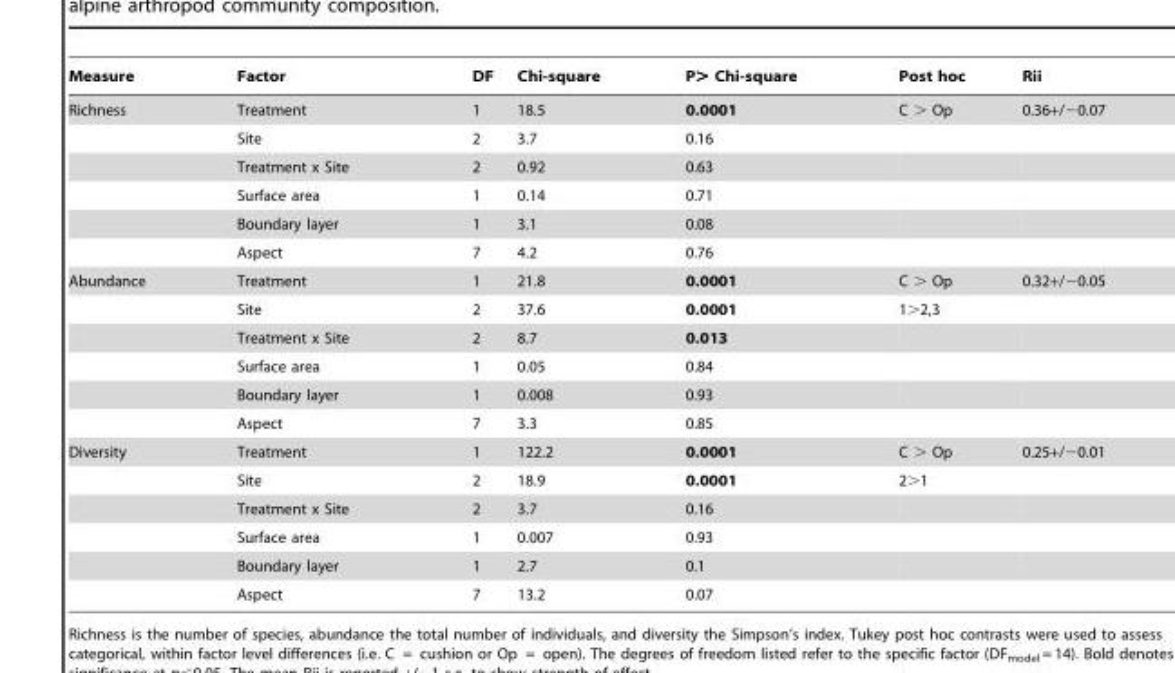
<table><thead><tr><td>Measure</td><td>Factor</td><td>DF</td><td>Chi-square</td><td>P&gt; Chi-square</td><td>Post hoc</td><td>Rii</td></tr></thead><tbody><tr><td rowspan="6">Richness</td><td>Treatment</td><td>1</td><td>18.5</td><td>0.0001</td><td>C &gt; Op</td><td>0.36+/−0.07</td></tr><tr><td>Site</td><td>2</td><td>3.7</td><td>0.16</td><td></td><td></td></tr><tr><td>Treatment x Site</td><td>2</td><td>0.92</td><td>0.63</td><td></td><td></td></tr><tr><td>Surface area</td><td>1</td><td>0.14</td><td>0.71</td><td></td><td></td></tr><tr><td>Boundary layer</td><td>1</td><td>3.1</td><td>0.08</td><td></td><td></td></tr><tr><td>Aspect</td><td>7</td><td>4.2</td><td>0.76</td><td></td><td></td></tr><tr><td rowspan="6">Abundance</td><td>Treatment</td><td>1</td><td>21.8</td><td>0.0001</td><td>C &gt; Op</td><td>0.32+/−0.05</td></tr><tr><td>Site</td><td>2</td><td>37.6</td><td>0.0001</td><td>1&gt;2,3</td><td></td></tr><tr><td>Treatment x Site</td><td>2</td><td>8.7</td><td>0.013</td><td></td><td></td></tr><tr><td>Surface area</td><td>1</td><td>0.05</td><td>0.84</td><td></td><td></td></tr><tr><td>Boundary layer</td><td>1</td><td>0.008</td><td>0.93</td><td></td><td></td></tr><tr><td>Aspect</td><td>7</td><td>3.3</td><td>0.85</td><td></td><td></td></tr><tr><td rowspan="6">Diversity</td><td>Treatment</td><td>1</td><td>122.2</td><td>0.0001</td><td>C &gt; Op</td><td>0.25+/−0.01</td></tr><tr><td>Site</td><td>2</td><td>18.9</td><td>0.0001</td><td>2&gt;1</td><td></td></tr><tr><td>Treatment x Site</td><td>2</td><td>3.7</td><td>0.16</td><td></td><td></td></tr><tr><td>Surface area</td><td>1</td><td>0.007</td><td>0.93</td><td></td><td></td></tr><tr><td>Boundary layer</td><td>1</td><td>2.7</td><td>0.1</td><td></td><td></td></tr><tr><td>Aspect</td><td>7</td><td>13.2</td><td>0.07</td><td></td><td></td></tr></tbody></table>